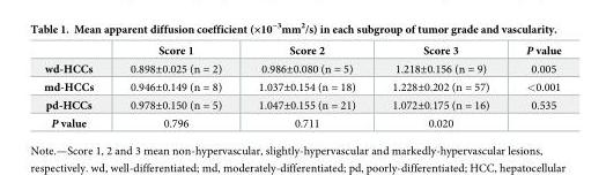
<table><thead><tr><td></td><td>Score 1</td><td>Score 2</td><td>Score 3</td><td>P value</td></tr></thead><tbody><tr><td>wd-HCCs</td><td>0.898±0.025 (n = 2)</td><td>0.986±0.080 (n = 5)</td><td>1.218±0.156 (n = 9)</td><td>0.005</td></tr><tr><td>md-HCCs</td><td>0.946±0.149 (n = 8)</td><td>1.037±0.154 (n = 18)</td><td>1.228±0.202 (n = 57)</td><td>&lt;0.001</td></tr><tr><td>pd-HCCs</td><td>0.978±0.150 (n = 5)</td><td>1.047±0.155 (n = 21)</td><td>1.072±0.175 (n = 16)</td><td>0.535</td></tr><tr><td>P value</td><td>0.796</td><td>0.711</td><td>0.020</td><td></td></tr></tbody></table>